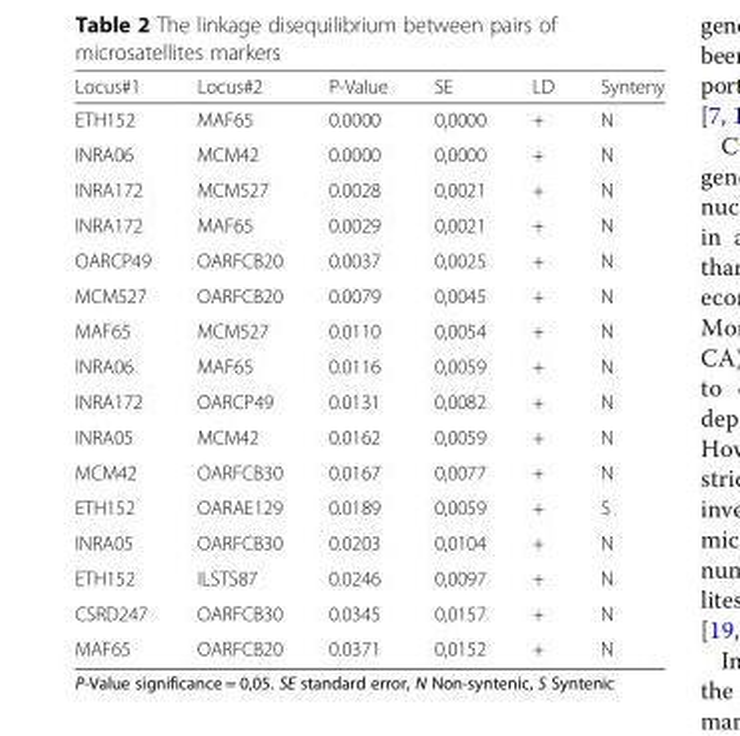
<table><thead><tr><td>Locus#1</td><td>Locus#2</td><td>P-Value</td><td>SE</td><td>LD</td><td>Synteny</td></tr></thead><tbody><tr><td>ETH152</td><td>MAF65</td><td>0.0000</td><td>0,0000</td><td>+</td><td>N</td></tr><tr><td>INRA06</td><td>MCM42</td><td>0.0000</td><td>0,0000</td><td>+</td><td>N</td></tr><tr><td>INRA172</td><td>MCM527</td><td>0.0028</td><td>0,0021</td><td>+</td><td>N</td></tr><tr><td>INRA172</td><td>MAF65</td><td>0.0029</td><td>0,0021</td><td>+</td><td>N</td></tr><tr><td>OARCP49</td><td>OARFCB20</td><td>0.0037</td><td>0,0025</td><td>+</td><td>N</td></tr><tr><td>MCM527</td><td>OARFCB20</td><td>0.0079</td><td>0,0045</td><td>+</td><td>N</td></tr><tr><td>MAF65</td><td>MCM527</td><td>0.0110</td><td>0,0054</td><td>+</td><td>N</td></tr><tr><td>INRA06</td><td>MAF65</td><td>0.0116</td><td>0,0059</td><td>+</td><td>N</td></tr><tr><td>INRA172</td><td>OARCP49</td><td>0.0131</td><td>0,0082</td><td>+</td><td>N</td></tr><tr><td>INRA05</td><td>MCM42</td><td>0.0162</td><td>0,0059</td><td>+</td><td>N</td></tr><tr><td>MCM42</td><td>OARFCB30</td><td>0.0167</td><td>0,0077</td><td>+</td><td>N</td></tr><tr><td>ETH152</td><td>OARAE129</td><td>0.0189</td><td>0,0059</td><td>+</td><td>S</td></tr><tr><td>INRA05</td><td>OARFCB30</td><td>0.0203</td><td>0,0104</td><td>+</td><td>N</td></tr><tr><td>ETH152</td><td>ILSTS87</td><td>0.0246</td><td>0,0097</td><td>+</td><td>N</td></tr><tr><td>CSRD247</td><td>OARFCB30</td><td>0.0345</td><td>0,0157</td><td>+</td><td>N</td></tr><tr><td>MAF65</td><td>OARFCB20</td><td>0.0371</td><td>0,0152</td><td>+</td><td>N</td></tr></tbody></table>